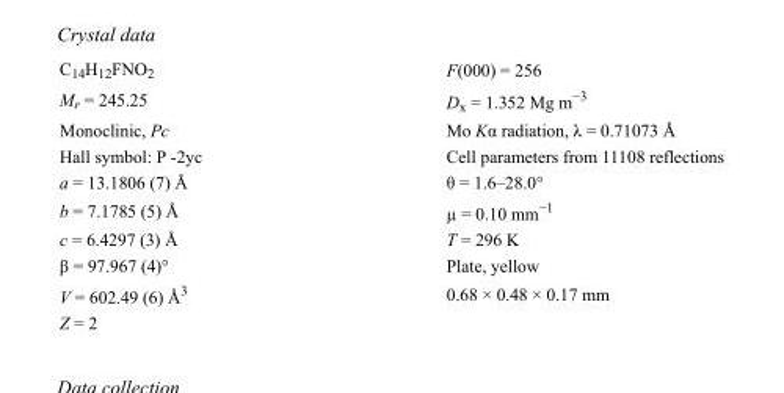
<table><tbody><tr><td>C<sub>14</sub>H<sub>12</sub>FNO<sub>2</sub></td><td>F(000) = 256</td></tr><tr><td>M<sub>r</sub> = 245.25</td><td>D<sub>x</sub> = 1.352 Mg m<sup>−3</sup></td></tr><tr><td>Monoclinic, Pc</td><td>Mo Kα radiation, λ = 0.71073 Å</td></tr><tr><td>Hall symbol: P -2yc</td><td>Cell parameters from 11108 reflections</td></tr><tr><td>a = 13.1806 (7) Å</td><td>θ = 1.6–28.0°</td></tr><tr><td>b = 7.1785 (5) Å</td><td>µ = 0.10 mm<sup>−1</sup></td></tr><tr><td>c = 6.4297 (3) Å</td><td>T = 296 K</td></tr><tr><td>β = 97.967 (4)°</td><td>Plate, yellow</td></tr><tr><td>V = 602.49 (6) Å<sup>3</sup></td><td>0.68 × 0.48 × 0.17 mm</td></tr><tr><td>Z = 2</td><td></td></tr></tbody></table>